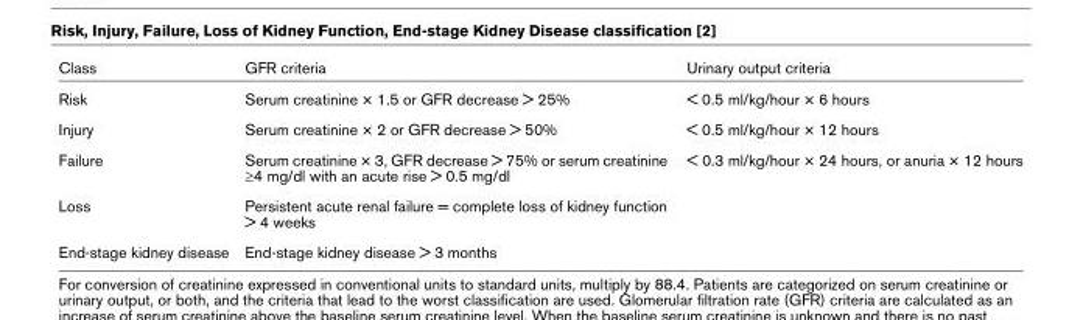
<table><thead><tr><td>Class</td><td>GFR criteria</td><td>Urinary output criteria</td></tr></thead><tbody><tr><td>Risk</td><td>Serum creatinine × 1.5 or GFR decrease &gt; 25%</td><td>&lt; 0.5 ml/kg/hour × 6 hours</td></tr><tr><td>Injury</td><td>Serum creatinine × 2 or GFR decrease &gt; 50%</td><td>&lt; 0.5 ml/kg/hour × 12 hours</td></tr><tr><td>Failure</td><td>Serum creatinine × 3, GFR decrease &gt; 75% or serum creatinine ≥4 mg/dl with an acute rise &gt; 0.5 mg/dl</td><td>&lt; 0.3 ml/kg/hour × 24 hours, or anuria × 12 hours</td></tr><tr><td>Loss</td><td>Persistent acute renal failure = complete loss of kidney function &gt; 4 weeks</td><td></td></tr><tr><td>End-stage kidney disease</td><td>End-stage kidney disease &gt; 3 months</td><td></td></tr></tbody></table>